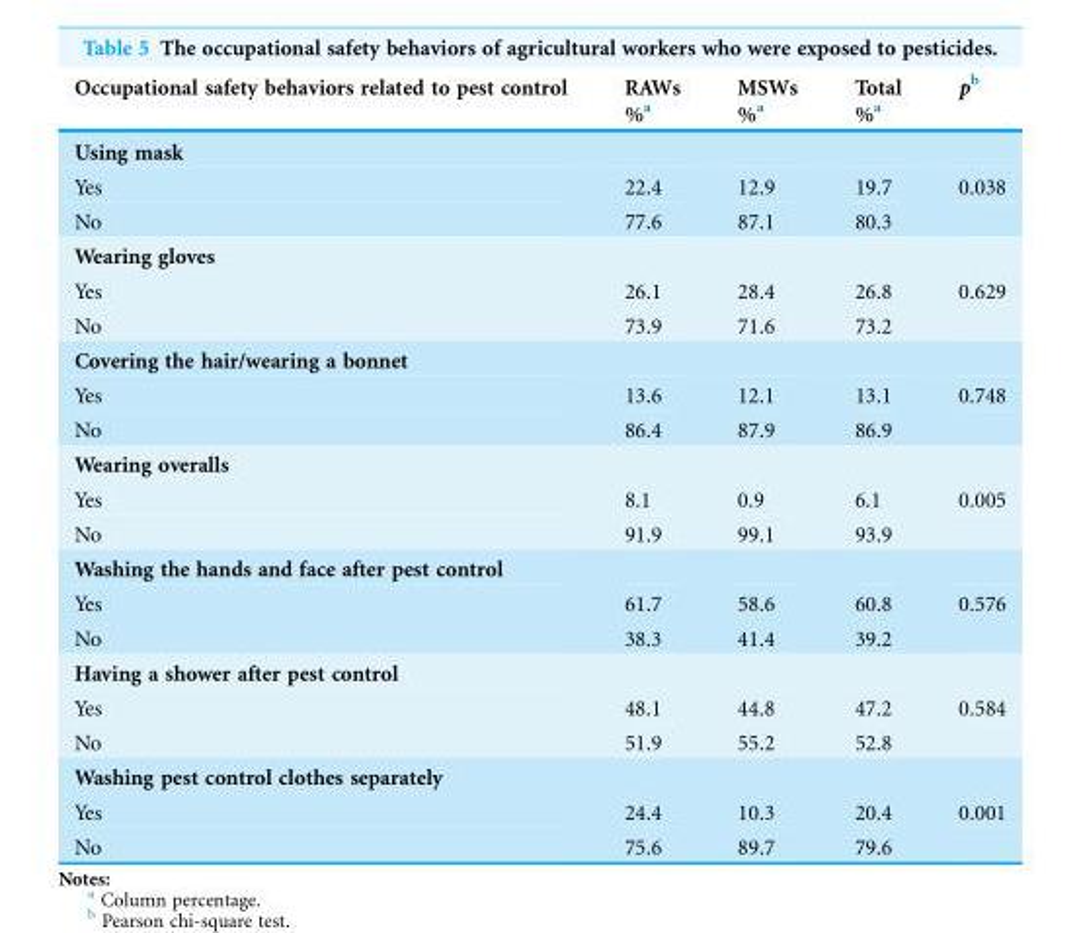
<table><thead><tr><td rowspan="2">Occupational safety behaviors related to pest control</td><td rowspan="2">RAWs %<sup>a</sup></td><td rowspan="2">MSWs %<sup>a</sup></td><td rowspan="2">Total %<sup>a</sup></td><td rowspan="2">p<sup>b</sup></td></tr><tr></tr></thead><tbody><tr><td colspan="5">Using mask</td></tr><tr><td>Yes</td><td>22.4</td><td>12.9</td><td>19.7</td><td>0.038</td></tr><tr><td>No</td><td>77.6</td><td>87.1</td><td>80.3</td><td></td></tr><tr><td colspan="5">Wearing gloves</td></tr><tr><td>Yes</td><td>26.1</td><td>28.4</td><td>26.8</td><td>0.629</td></tr><tr><td>No</td><td>73.9</td><td>71.6</td><td>73.2</td><td></td></tr><tr><td colspan="5">Covering the hair/wearing a bonnet</td></tr><tr><td>Yes</td><td>13.6</td><td>12.1</td><td>13.1</td><td>0.748</td></tr><tr><td>No</td><td>86.4</td><td>87.9</td><td>86.9</td><td></td></tr><tr><td colspan="5">Wearing overalls</td></tr><tr><td>Yes</td><td>8.1</td><td>0.9</td><td>6.1</td><td>0.005</td></tr><tr><td>No</td><td>91.9</td><td>99.1</td><td>93.9</td><td></td></tr><tr><td colspan="5">Washing the hands and face after pest control</td></tr><tr><td>Yes</td><td>61.7</td><td>58.6</td><td>60.8</td><td>0.576</td></tr><tr><td>No</td><td>38.3</td><td>41.4</td><td>39.2</td><td></td></tr><tr><td colspan="5">Having a shower after pest control</td></tr><tr><td>Yes</td><td>48.1</td><td>44.8</td><td>47.2</td><td>0.584</td></tr><tr><td>No</td><td>51.9</td><td>55.2</td><td>52.8</td><td></td></tr><tr><td colspan="5">Washing pest control clothes separately</td></tr><tr><td>Yes</td><td>24.4</td><td>10.3</td><td>20.4</td><td>0.001</td></tr><tr><td>No</td><td>75.6</td><td>89.7</td><td>79.6</td><td></td></tr></tbody></table>